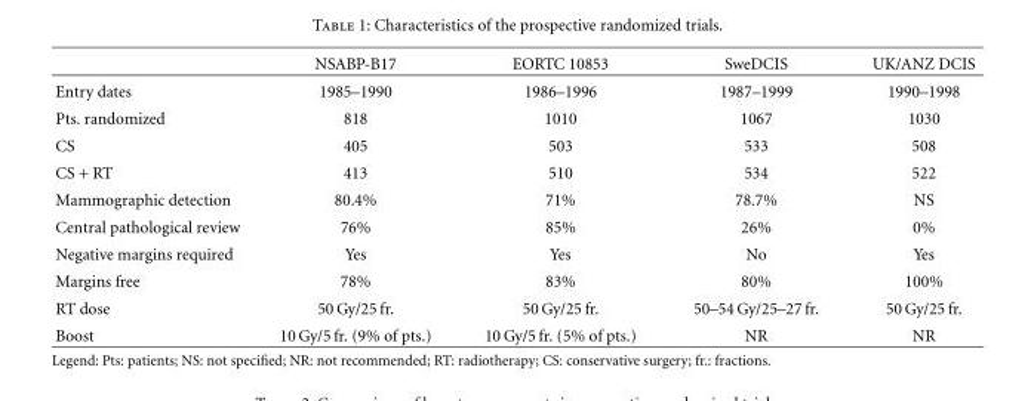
<table><thead><tr><td></td><td>NSABP-B17</td><td>EORTC 10853</td><td>SweDCIS</td><td>UK/ANZ DCIS</td></tr></thead><tbody><tr><td>Entry dates</td><td>1985–1990</td><td>1986–1996</td><td>1987–1999</td><td>1990–1998</td></tr><tr><td>Pts. randomized</td><td>818</td><td>1010</td><td>1067</td><td>1030</td></tr><tr><td>CS</td><td>405</td><td>503</td><td>533</td><td>508</td></tr><tr><td>CS + RT</td><td>413</td><td>510</td><td>534</td><td>522</td></tr><tr><td>Mammographic detection</td><td>80.4%</td><td>71%</td><td>78.7%</td><td>NS</td></tr><tr><td>Central pathological review</td><td>76%</td><td>85%</td><td>26%</td><td>0%</td></tr><tr><td>Negative margins required</td><td>Yes</td><td>Yes</td><td>No</td><td>Yes</td></tr><tr><td>Margins free</td><td>78%</td><td>83%</td><td>80%</td><td>100%</td></tr><tr><td>RT dose</td><td>50 Gy/25 fr.</td><td>50 Gy/25 fr.</td><td>50–54 Gy/25–27 fr.</td><td>50 Gy/25 fr.</td></tr><tr><td>Boost</td><td>10 Gy/5 fr. (9% of pts.)</td><td>10 Gy/5 fr. (5% of pts.)</td><td>NR</td><td>NR</td></tr></tbody></table>